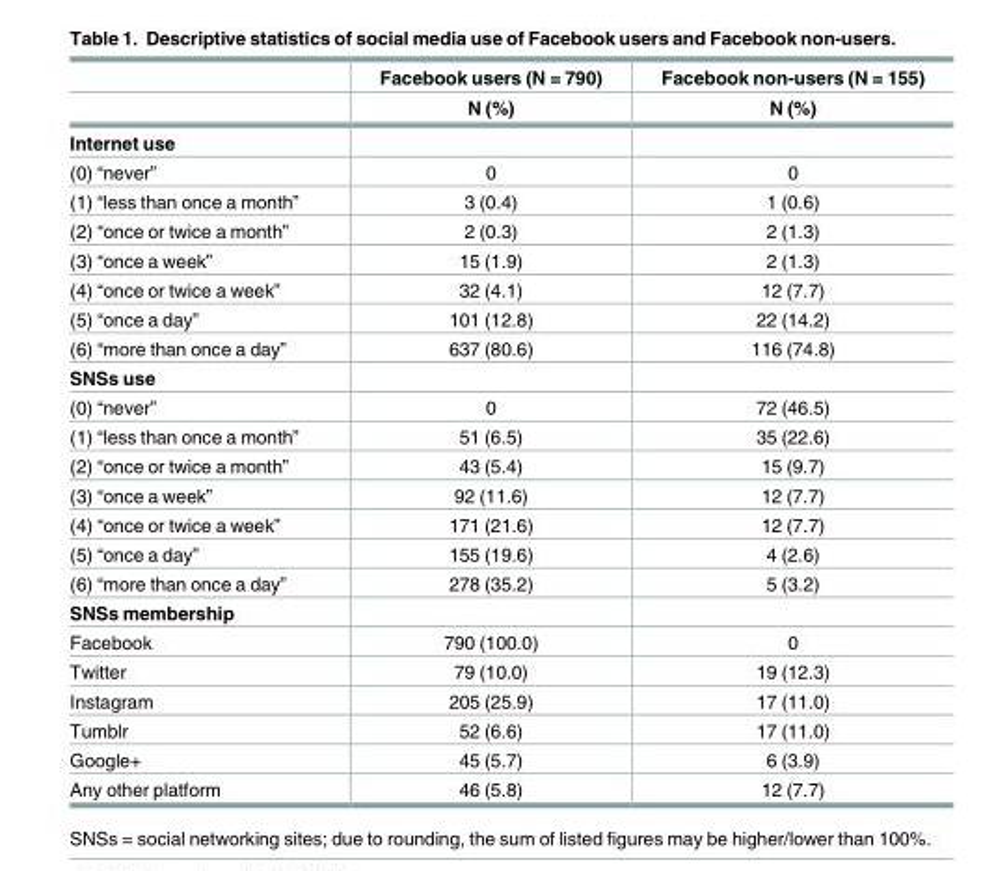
<table><thead><tr><td rowspan="2"></td><td rowspan="2">Facebook users (N = 790) N (%)</td><td rowspan="2">Facebook non-users (N = 155) N (%)</td></tr><tr></tr></thead><tbody><tr><td colspan="3">Internet use</td></tr><tr><td>(0) “never”</td><td>0</td><td>0</td></tr><tr><td>(1) “less than once a month”</td><td>3 (0.4)</td><td>1 (0.6)</td></tr><tr><td>(2) “once or twice a month”</td><td>2 (0.3)</td><td>2 (1.3)</td></tr><tr><td>(3) “once a week”</td><td>15 (1.9)</td><td>2 (1.3)</td></tr><tr><td>(4) “once or twice a week”</td><td>32 (4.1)</td><td>12 (7.7)</td></tr><tr><td>(5) “once a day”</td><td>101 (12.8)</td><td>22 (14.2)</td></tr><tr><td>(6) “more than once a day”</td><td>637 (80.6)</td><td>116 (74.8)</td></tr><tr><td colspan="3">SNSs use</td></tr><tr><td>(0) “never”</td><td>0</td><td>72 (46.5)</td></tr><tr><td>(1) “less than once a month”</td><td>51 (6.5)</td><td>35 (22.6)</td></tr><tr><td>(2) “once or twice a month”</td><td>43 (5.4)</td><td>15 (9.7)</td></tr><tr><td>(3) “once a week”</td><td>92 (11.6)</td><td>12 (7.7)</td></tr><tr><td>(4) “once or twice a week”</td><td>171 (21.6)</td><td>12 (7.7)</td></tr><tr><td>(5) “once a day”</td><td>155 (19.6)</td><td>4 (2.6)</td></tr><tr><td>(6) “more than once a day”</td><td>278 (35.2)</td><td>5 (3.2)</td></tr><tr><td colspan="3">SNSs membership</td></tr><tr><td>Facebook</td><td>790 (100.0)</td><td>0</td></tr><tr><td>Twitter</td><td>79 (10.0)</td><td>19 (12.3)</td></tr><tr><td>Instagram</td><td>205 (25.9)</td><td>17 (11.0)</td></tr><tr><td>Tumblr</td><td>52 (6.6)</td><td>17 (11.0)</td></tr><tr><td>Google+</td><td>45 (5.7)</td><td>6 (3.9)</td></tr><tr><td>Any other platform</td><td>46 (5.8)</td><td>12 (7.7)</td></tr></tbody></table>